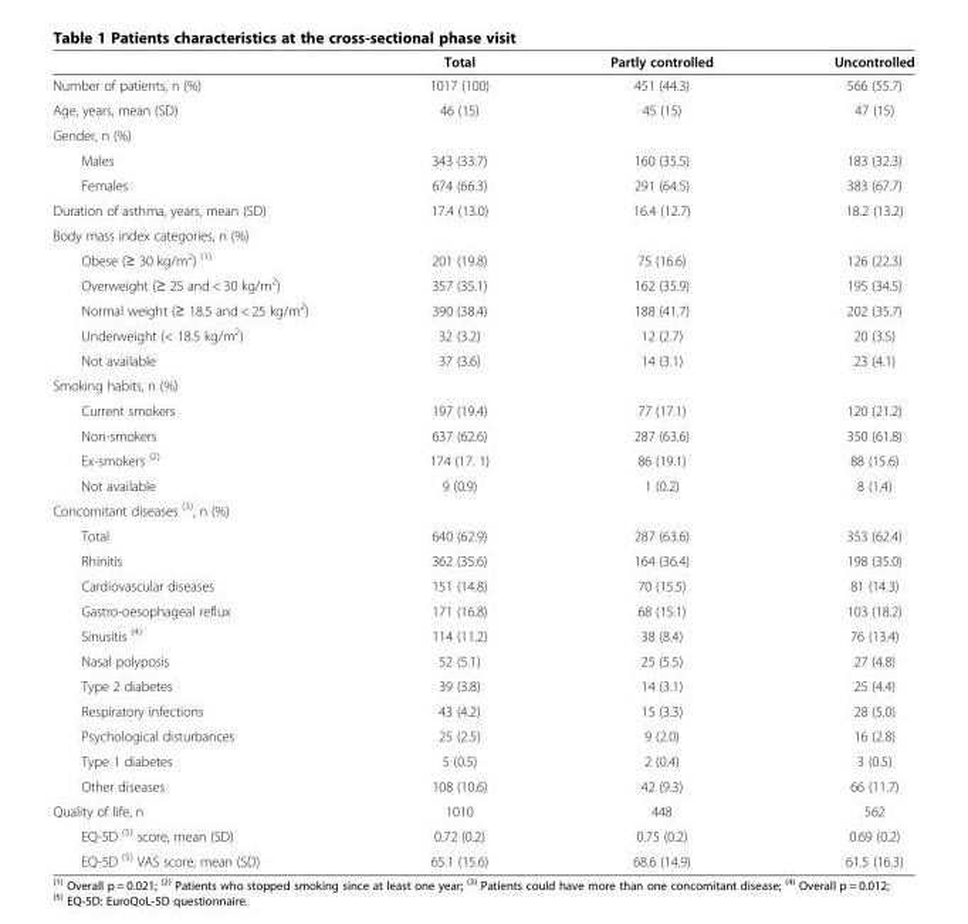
<table><thead><tr><td></td><td>Total</td><td>Partly controlled</td><td>Uncontrolled</td></tr></thead><tbody><tr><td>Number of patients, n (%)</td><td>1017 (100)</td><td>451 (44.3)</td><td>566 (55.7)</td></tr><tr><td>Age, years, mean (SD)</td><td>46 (15)</td><td>45 (15)</td><td>47 (15)</td></tr><tr><td colspan="4">Gender, n (%)</td></tr><tr><td>Males</td><td>343 (33.7)</td><td>160 (35.5)</td><td>183 (32.3)</td></tr><tr><td>Females</td><td>674 (66.3)</td><td>291 (64.5)</td><td>383 (67.7)</td></tr><tr><td>Duration of asthma, years, mean (SD)</td><td>17.4 (13.0)</td><td>16.4 (12.7)</td><td>18.2 (13.2)</td></tr><tr><td colspan="4">Body mass index categories, n (%)</td></tr><tr><td>Obese (≥ 30 kg/m<sup>2</sup>) <sup>(1)</sup></td><td>201 (19.8)</td><td>75 (16.6)</td><td>126 (22.3)</td></tr><tr><td>Overweight (≥ 25 and &lt; 30 kg/m<sup>2</sup>)</td><td>357 (35.1)</td><td>162 (35.9)</td><td>195 (34.5)</td></tr><tr><td>Normal weight (≥ 18.5 and &lt; 25 kg/m<sup>2</sup>)</td><td>390 (38.4)</td><td>188 (41.7)</td><td>202 (35.7)</td></tr><tr><td>Underweight (&lt; 18.5 kg/m<sup>2</sup>)</td><td>32 (3.2)</td><td>12 (2.7)</td><td>20 (3.5)</td></tr><tr><td>Not available</td><td>37 (3.6)</td><td>14 (3.1)</td><td>23 (4.1)</td></tr><tr><td colspan="4">Smoking habits, n (%)</td></tr><tr><td>Current smokers</td><td>197 (19.4)</td><td>77 (17.1)</td><td>120 (21.2)</td></tr><tr><td>Non-smokers</td><td>637 (62.6)</td><td>287 (63.6)</td><td>350 (61.8)</td></tr><tr><td>Ex-smokers <sup>(2)</sup></td><td>174 (17. 1)</td><td>86 (19.1)</td><td>88 (15.6)</td></tr><tr><td>Not available</td><td>9 (0.9)</td><td>1 (0.2)</td><td>8 (1.4)</td></tr><tr><td colspan="4">Concomitant diseases <sup>(3)</sup>, n (%)</td></tr><tr><td>Total</td><td>640 (62.9)</td><td>287 (63.6)</td><td>353 (62.4)</td></tr><tr><td>Rhinitis</td><td>362 (35.6)</td><td>164 (36.4)</td><td>198 (35.0)</td></tr><tr><td>Cardiovascular diseases</td><td>151 (14.8)</td><td>70 (15.5)</td><td>81 (14.3)</td></tr><tr><td>Gastro-oesophageal reflux</td><td>171 (16.8)</td><td>68 (15.1)</td><td>103 (18.2)</td></tr><tr><td>Sinusitis <sup>(4)</sup></td><td>114 (11.2)</td><td>38 (8.4)</td><td>76 (13.4)</td></tr><tr><td>Nasal polyposis</td><td>52 (5.1)</td><td>25 (5.5)</td><td>27 (4.8)</td></tr><tr><td>Type 2 diabetes</td><td>39 (3.8)</td><td>14 (3.1)</td><td>25 (4.4)</td></tr><tr><td>Respiratory infections</td><td>43 (4.2)</td><td>15 (3.3)</td><td>28 (5.0)</td></tr><tr><td>Psychological disturbances</td><td>25 (2.5)</td><td>9 (2.0)</td><td>16 (2.8)</td></tr><tr><td>Type 1 diabetes</td><td>5 (0.5)</td><td>2 (0.4)</td><td>3 (0.5)</td></tr><tr><td>Other diseases</td><td>108 (10.6)</td><td>42 (9.3)</td><td>66 (11.7)</td></tr><tr><td>Quality of life, n</td><td>1010</td><td>448</td><td>562</td></tr><tr><td>EQ-5D <sup>(5)</sup> score, mean (SD)</td><td>0.72 (0.2)</td><td>0.75 (0.2)</td><td>0.69 (0.2)</td></tr><tr><td>EQ-5D <sup>(5)</sup> VAS score, mean (SD)</td><td>65.1 (15.6)</td><td>68.6 (14.9)</td><td>61.5 (16.3)</td></tr></tbody></table>